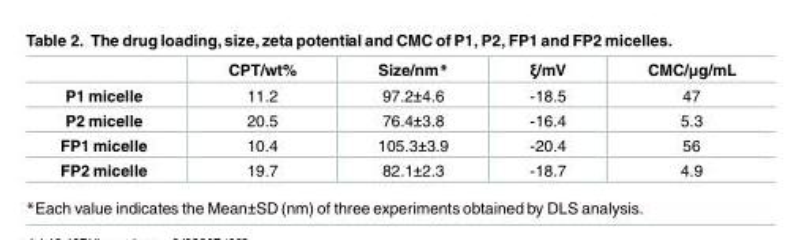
<table><thead><tr><td></td><td>CPT/wt%</td><td>Size/nm*</td><td>ξ/mV</td><td>CMC/μg/mL</td></tr></thead><tbody><tr><td>P1 micelle</td><td>11.2</td><td>97.2±4.6</td><td>-18.5</td><td>47</td></tr><tr><td>P2 micelle</td><td>20.5</td><td>76.4±3.8</td><td>-16.4</td><td>5.3</td></tr><tr><td>FP1 micelle</td><td>10.4</td><td>105.3±3.9</td><td>-20.4</td><td>56</td></tr><tr><td>FP2 micelle</td><td>19.7</td><td>82.1±2.3</td><td>-18.7</td><td>4.9</td></tr></tbody></table>